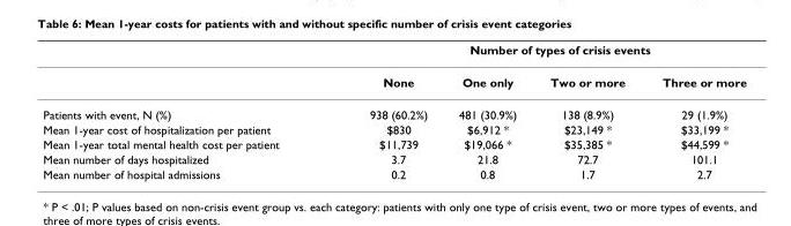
<table><thead><tr><td rowspan="2"></td><td colspan="4">Number of types of crisis events</td></tr><tr><td>None</td><td>One only</td><td>Two or more</td><td>Three or more</td></tr></thead><tbody><tr><td>Patients with event, N (%)</td><td>938 (60.2%)</td><td>481 (30.9%)</td><td>138 (8.9%)</td><td>29 (1.9%)</td></tr><tr><td>Mean 1-year cost of hospitalization per patient</td><td>$830</td><td>$6,912 *</td><td>$23,149 *</td><td>$33,199 *</td></tr><tr><td>Mean 1-year total mental health cost per patient</td><td>$11,739</td><td>$19,066 *</td><td>$35,385 *</td><td>$44,599 *</td></tr><tr><td>Mean number of days hospitalized</td><td>3.7</td><td>21.8</td><td>72.7</td><td>101.1</td></tr><tr><td>Mean number of hospital admissions</td><td>0.2</td><td>0.8</td><td>1.7</td><td>2.7</td></tr></tbody></table>